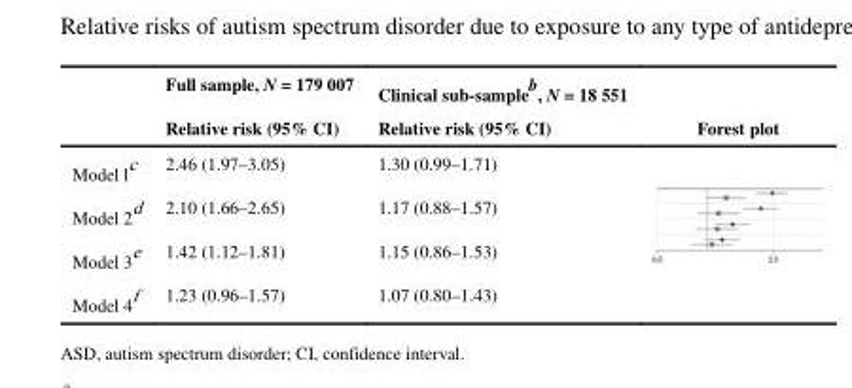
<table><thead><tr><td rowspan="2"></td><td rowspan="2">Full sample, N = 179 007 Relative risk (95% CI)</td><td rowspan="2">Clinical sub-sample<sup>b</sup>, N = 18 551 Relative risk (95% CI)</td><td rowspan="2">Forest plot</td></tr><tr></tr></thead><tbody><tr><td>Model l<sup>c</sup></td><td>2.46 (1.97–3.05)</td><td>1.30 (0.99–1.71)</td><td rowspan="4"></td></tr><tr><td>Model 2<sup>d</sup></td><td>2.10 (1.66–2.65)</td><td>1.17 (0.88–1.57)</td></tr><tr><td>Model 3<sup>e</sup></td><td>1.42 (1.12–1.81)</td><td>1.15 (0.86–1.53)</td></tr><tr><td>Model 4<sup>f</sup></td><td>1.23 (0.96–1.57)</td><td>1.07 (0.80–1.43)</td></tr></tbody></table>